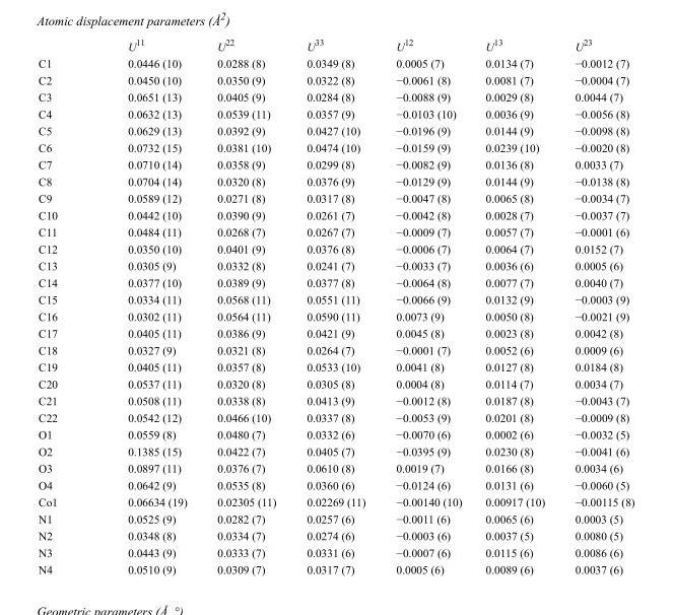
<table><thead><tr><td></td><td>U<sup>11</sup></td><td>U<sup>22</sup></td><td>U<sup>33</sup></td><td>U<sup>12</sup></td><td>U<sup>13</sup></td><td>U<sup>23</sup></td></tr></thead><tbody><tr><td>C1</td><td>0.0446 (10)</td><td>0.0288 (8)</td><td>0.0349 (8)</td><td>0.0005 (7)</td><td>0.0134 (7)</td><td>−0.0012 (7)</td></tr><tr><td>C2</td><td>0.0450 (10)</td><td>0.0350 (9)</td><td>0.0322 (8)</td><td>−0.0061 (8)</td><td>0.0081 (7)</td><td>−0.0004 (7)</td></tr><tr><td>C3</td><td>0.0651 (13)</td><td>0.0405 (9)</td><td>0.0284 (8)</td><td>−0.0088 (9)</td><td>0.0029 (8)</td><td>0.0044 (7)</td></tr><tr><td>C4</td><td>0.0632 (13)</td><td>0.0539 (11)</td><td>0.0357 (9)</td><td>−0.0103 (10)</td><td>0.0036 (9)</td><td>−0.0056 (8)</td></tr><tr><td>C5</td><td>0.0629 (13)</td><td>0.0392 (9)</td><td>0.0427 (10)</td><td>−0.0196 (9)</td><td>0.0144 (9)</td><td>−0.0098 (8)</td></tr><tr><td>C6</td><td>0.0732 (15)</td><td>0.0381 (10)</td><td>0.0474 (10)</td><td>−0.0159 (9)</td><td>0.0239 (10)</td><td>−0.0020 (8)</td></tr><tr><td>C7</td><td>0.0710 (14)</td><td>0.0358 (9)</td><td>0.0299 (8)</td><td>−0.0082 (9)</td><td>0.0136 (8)</td><td>0.0033 (7)</td></tr><tr><td>C8</td><td>0.0704 (14)</td><td>0.0320 (8)</td><td>0.0376 (9)</td><td>−0.0129 (9)</td><td>0.0144 (9)</td><td>−0.0138 (8)</td></tr><tr><td>C9</td><td>0.0589 (12)</td><td>0.0271 (8)</td><td>0.0317 (8)</td><td>−0.0047 (8)</td><td>0.0065 (8)</td><td>−0.0034 (7)</td></tr><tr><td>C10</td><td>0.0442 (10)</td><td>0.0390 (9)</td><td>0.0261 (7)</td><td>−0.0042 (8)</td><td>0.0028 (7)</td><td>−0.0037 (7)</td></tr><tr><td>C11</td><td>0.0484 (11)</td><td>0.0268 (7)</td><td>0.0267 (7)</td><td>−0.0009 (7)</td><td>0.0057 (7)</td><td>−0.0001 (6)</td></tr><tr><td>C12</td><td>0.0350 (10)</td><td>0.0401 (9)</td><td>0.0376 (8)</td><td>−0.0006 (7)</td><td>0.0064 (7)</td><td>0.0152 (7)</td></tr><tr><td>C13</td><td>0.0305 (9)</td><td>0.0332 (8)</td><td>0.0241 (7)</td><td>−0.0033 (7)</td><td>0.0036 (6)</td><td>0.0005 (6)</td></tr><tr><td>C14</td><td>0.0377 (10)</td><td>0.0389 (9)</td><td>0.0377 (8)</td><td>−0.0064 (8)</td><td>0.0077 (7)</td><td>0.0040 (7)</td></tr><tr><td>C15</td><td>0.0334 (11)</td><td>0.0568 (11)</td><td>0.0551 (11)</td><td>−0.0066 (9)</td><td>0.0132 (9)</td><td>−0.0003 (9)</td></tr><tr><td>C16</td><td>0.0302 (11)</td><td>0.0564 (11)</td><td>0.0590 (11)</td><td>0.0073 (9)</td><td>0.0050 (8)</td><td>−0.0021 (9)</td></tr><tr><td>C17</td><td>0.0405 (11)</td><td>0.0386 (9)</td><td>0.0421 (9)</td><td>0.0045 (8)</td><td>0.0023 (8)</td><td>0.0042 (8)</td></tr><tr><td>C18</td><td>0.0327 (9)</td><td>0.0321 (8)</td><td>0.0264 (7)</td><td>−0.0001 (7)</td><td>0.0052 (6)</td><td>0.0009 (6)</td></tr><tr><td>C19</td><td>0.0405 (11)</td><td>0.0357 (8)</td><td>0.0533 (10)</td><td>0.0041 (8)</td><td>0.0127 (8)</td><td>0.0184 (8)</td></tr><tr><td>C20</td><td>0.0537 (11)</td><td>0.0320 (8)</td><td>0.0305 (8)</td><td>0.0004 (8)</td><td>0.0114 (7)</td><td>0.0034 (7)</td></tr><tr><td>C21</td><td>0.0508 (11)</td><td>0.0338 (8)</td><td>0.0413 (9)</td><td>−0.0012 (8)</td><td>0.0187 (8)</td><td>−0.0043 (7)</td></tr><tr><td>C22</td><td>0.0542 (12)</td><td>0.0466 (10)</td><td>0.0337 (8)</td><td>−0.0053 (9)</td><td>0.0201 (8)</td><td>−0.0009 (8)</td></tr><tr><td>O1</td><td>0.0559 (8)</td><td>0.0480 (7)</td><td>0.0332 (6)</td><td>−0.0070 (6)</td><td>0.0002 (6)</td><td>−0.0032 (5)</td></tr><tr><td>O2</td><td>0.1385 (15)</td><td>0.0422 (7)</td><td>0.0405 (7)</td><td>−0.0395 (9)</td><td>0.0230 (8)</td><td>−0.0041 (6)</td></tr><tr><td>O3</td><td>0.0897 (11)</td><td>0.0376 (7)</td><td>0.0610 (8)</td><td>0.0019 (7)</td><td>0.0166 (8)</td><td>0.0034 (6)</td></tr><tr><td>O4</td><td>0.0642 (9)</td><td>0.0535 (8)</td><td>0.0360 (6)</td><td>−0.0124 (6)</td><td>0.0131 (6)</td><td>−0.0060 (5)</td></tr><tr><td>Co1</td><td>0.06634 (19)</td><td>0.02305 (11)</td><td>0.02269 (11)</td><td>−0.00140 (10)</td><td>0.00917 (10)</td><td>−0.00115 (8)</td></tr><tr><td>N1</td><td>0.0525 (9)</td><td>0.0282 (7)</td><td>0.0257 (6)</td><td>−0.0011 (6)</td><td>0.0065 (6)</td><td>0.0003 (5)</td></tr><tr><td>N2</td><td>0.0348 (8)</td><td>0.0334 (7)</td><td>0.0274 (6)</td><td>−0.0003 (6)</td><td>0.0037 (5)</td><td>0.0080 (5)</td></tr><tr><td>N3</td><td>0.0443 (9)</td><td>0.0333 (7)</td><td>0.0331 (6)</td><td>−0.0007 (6)</td><td>0.0115 (6)</td><td>0.0086 (6)</td></tr><tr><td>N4</td><td>0.0510 (9)</td><td>0.0309 (7)</td><td>0.0317 (7)</td><td>0.0005 (6)</td><td>0.0089 (6)</td><td>0.0037 (6)</td></tr></tbody></table>